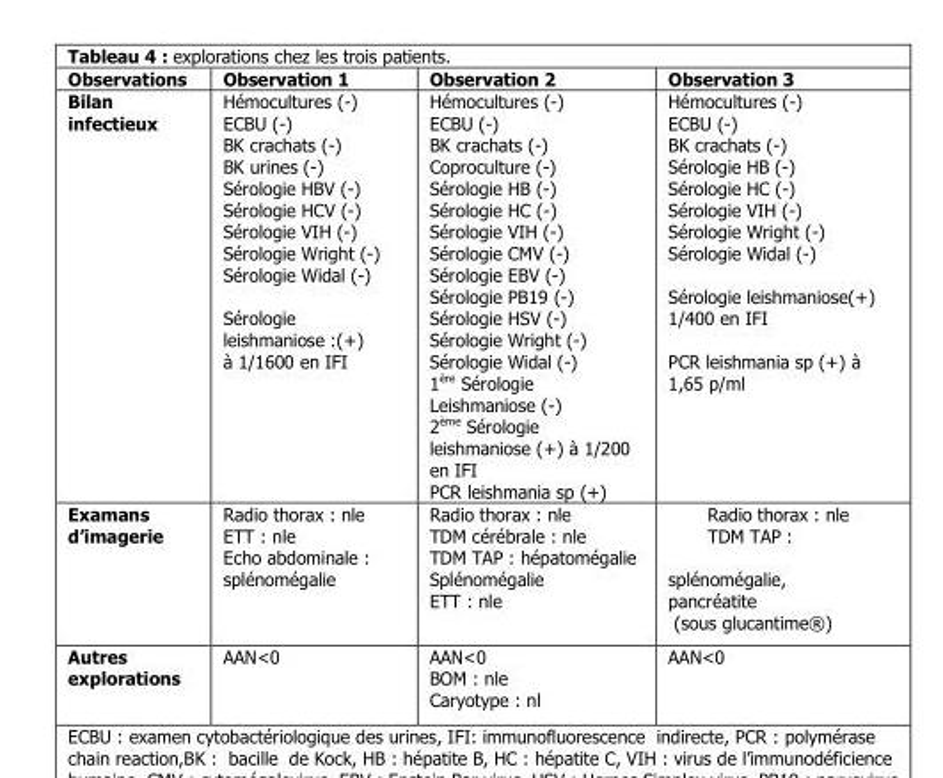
<table><thead><tr><td>Observations</td><td>Observation 1</td><td>Observation 2</td><td>Observation 3</td></tr></thead><tbody><tr><td>Bilan infectieux</td><td>Hémocultures (-) ECBU (-) BK crachats (-) BK urines (-) Sérologie HBV (-) Sérologie HCV (-) Sérologie VIH (-) Sérologie Wright (-) Sérologie Widal (-) Sérologie leishmaniose :(+) à 1/1600 en IFI</td><td>Hémocultures (-) ECBU (-) BK crachats (-) Coproculture (-) Sérologie HB (-) Sérologie HC (-) Sérologie VIH (-) Sérologie CMV (-) Sérologie EBV (-) Sérologie PB19 (-) Sérologie HSV (-) Sérologie Wright (-) Sérologie Widal (-) 1<sup>ère</sup> Sérologie Leishmaniose (-) 2<sup>ème</sup> Sérologie leishmaniose (+) à 1/200 en IFI PCR leishmania sp (+)</td><td>Hémocultures (-) ECBU (-) BK crachats (-) Sérologie HB (-) Sérologie HC (-) Sérologie VIH (-) Sérologie Wright (-) Sérologie Widal (-) Sérologie leishmaniose(+) 1/400 en IFI PCR leishmania sp (+) à 1,65 p/ml</td></tr><tr><td>Examans d’imagerie</td><td>Radio thorax : nle ETT : nle Echo abdominale : splénomégalie</td><td>Radio thorax : nle TDM cérébrale : nle TDM TAP : hépatomégalie Splénomégalie ETT : nle</td><td>Radio thorax : nle TDM TAP : splénomégalie, pancréatite (sous glucantime<sup>®</sup>)</td></tr><tr><td>Autres explorations</td><td>AAN&lt;0</td><td>AAN&lt;0 BOM : nle Caryotype : nl</td><td>AAN&lt;0</td></tr></tbody></table>